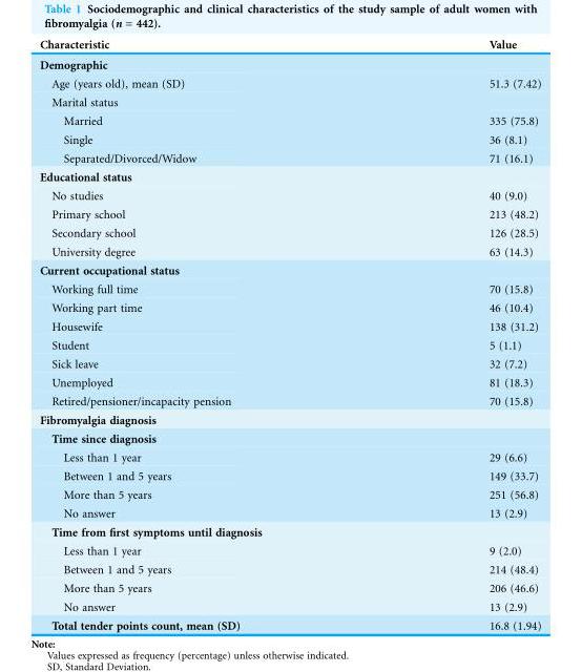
<table><thead><tr><td>Characteristic</td><td>Value</td></tr></thead><tbody><tr><td colspan="2">Demographic</td></tr><tr><td>Age (years old), mean (SD)</td><td>51.3 (7.42)</td></tr><tr><td colspan="2">Marital status</td></tr><tr><td>Married</td><td>335 (75.8)</td></tr><tr><td>Single</td><td>36 (8.1)</td></tr><tr><td>Separated/Divorced/Widow</td><td>71 (16.1)</td></tr><tr><td colspan="2">Educational status</td></tr><tr><td>No studies</td><td>40 (9.0)</td></tr><tr><td>Primary school</td><td>213 (48.2)</td></tr><tr><td>Secondary school</td><td>126 (28.5)</td></tr><tr><td>University degree</td><td>63 (14.3)</td></tr><tr><td colspan="2">Current occupational status</td></tr><tr><td>Working full time</td><td>70 (15.8)</td></tr><tr><td>Working part time</td><td>46 (10.4)</td></tr><tr><td>Housewife</td><td>138 (31.2)</td></tr><tr><td>Student</td><td>5 (1.1)</td></tr><tr><td>Sick leave</td><td>32 (7.2)</td></tr><tr><td>Unemployed</td><td>81 (18.3)</td></tr><tr><td>Retired/pensioner/incapacity pension</td><td>70 (15.8)</td></tr><tr><td colspan="2">Fibromyalgia diagnosis</td></tr><tr><td colspan="2">Time since diagnosis</td></tr><tr><td>Less than 1 year</td><td>29 (6.6)</td></tr><tr><td>Between 1 and 5 years</td><td>149 (33.7)</td></tr><tr><td>More than 5 years</td><td>251 (56.8)</td></tr><tr><td>No answer</td><td>13 (2.9)</td></tr><tr><td colspan="2">Time from first symptoms until diagnosis</td></tr><tr><td>Less than 1 year</td><td>9 (2.0)</td></tr><tr><td>Between 1 and 5 years</td><td>214 (48.4)</td></tr><tr><td>More than 5 years</td><td>206 (46.6)</td></tr><tr><td>No answer</td><td>13 (2.9)</td></tr><tr><td>Total tender points count, mean (SD)</td><td>16.8 (1.94)</td></tr></tbody></table>